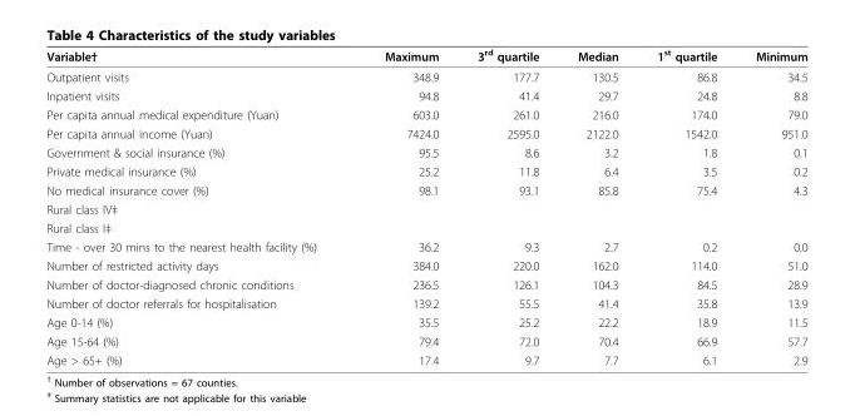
<table><thead><tr><td>Variable†</td><td>Maximum</td><td>3<sup>rd</sup> quartile</td><td>Median</td><td>1<sup>st</sup> quartile</td><td>Minimum</td></tr></thead><tbody><tr><td>Outpatient visits</td><td>348.9</td><td>177.7</td><td>130.5</td><td>86.8</td><td>34.5</td></tr><tr><td>Inpatient visits</td><td>94.8</td><td>41.4</td><td>29.7</td><td>24.8</td><td>8.8</td></tr><tr><td>Per capita annual medical expenditure (Yuan)</td><td>603.0</td><td>261.0</td><td>216.0</td><td>174.0</td><td>79.0</td></tr><tr><td>Per capita annual income (Yuan)</td><td>7424.0</td><td>2595.0</td><td>2122.0</td><td>1542.0</td><td>951.0</td></tr><tr><td>Government &amp; social insurance (%)</td><td>95.5</td><td>8.6</td><td>3.2</td><td>1.8</td><td>0.1</td></tr><tr><td>Private medical insurance (%)</td><td>25.2</td><td>11.8</td><td>6.4</td><td>3.5</td><td>0.2</td></tr><tr><td>No medical insurance cover (%)</td><td>98.1</td><td>93.1</td><td>85.8</td><td>75.4</td><td>4.3</td></tr><tr><td colspan="6">Rural class IV‡</td></tr><tr><td colspan="6">Rural class I‡</td></tr><tr><td>Time - over 30 mins to the nearest health facility (%)</td><td>36.2</td><td>9.3</td><td>2.7</td><td>0.2</td><td>0.0</td></tr><tr><td>Number of restricted activity days</td><td>384.0</td><td>220.0</td><td>162.0</td><td>114.0</td><td>51.0</td></tr><tr><td>Number of doctor-diagnosed chronic conditions</td><td>236.5</td><td>126.1</td><td>104.3</td><td>84.5</td><td>28.9</td></tr><tr><td>Number of doctor referrals for hospitalisation</td><td>139.2</td><td>55.5</td><td>41.4</td><td>35.8</td><td>13.9</td></tr><tr><td>Age 0-14 (%)</td><td>35.5</td><td>25.2</td><td>22.2</td><td>18.9</td><td>11.5</td></tr><tr><td>Age 15-64 (%)</td><td>79.4</td><td>72.0</td><td>70.4</td><td>66.9</td><td>57.7</td></tr><tr><td>Age &gt; 65+ (%)</td><td>17.4</td><td>9.7</td><td>7.7</td><td>6.1</td><td>2.9</td></tr></tbody></table>